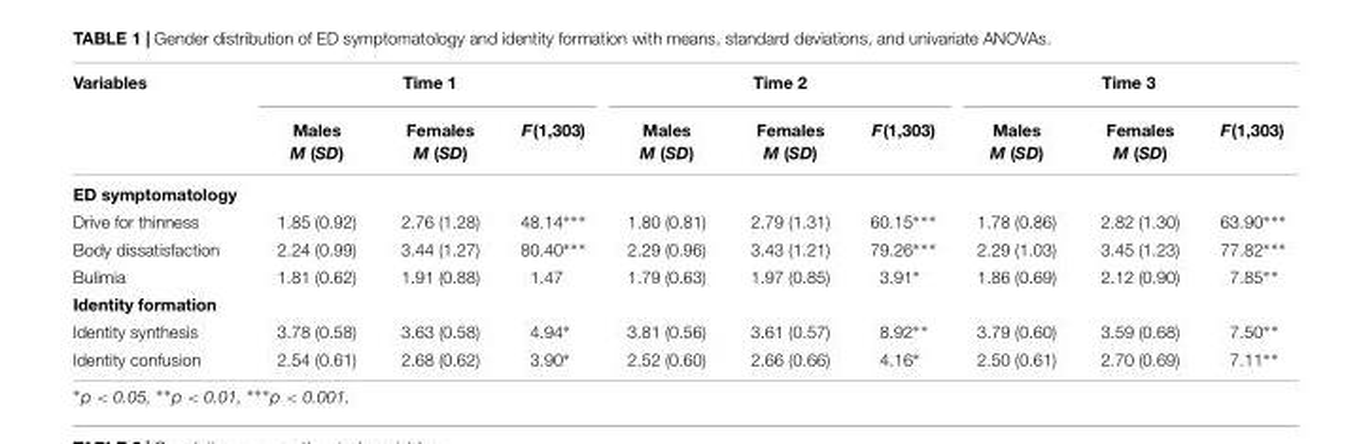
<table><thead><tr><td rowspan="2">Variables</td><td colspan="3">Time 1</td><td colspan="3">Time 2</td><td colspan="3">Time 3</td></tr><tr><td>Males M (SD)</td><td>Females M (SD)</td><td>F(1,303)</td><td>Males M (SD)</td><td>Females M (SD)</td><td>F(1,303)</td><td>Males M (SD)</td><td>Females M (SD)</td><td>F(1,303)</td></tr></thead><tbody><tr><td colspan="10">ED symptomatology</td></tr><tr><td>Drive for thinness</td><td>1.85 (0.92)</td><td>2.76 (1.28)</td><td>48.14∗∗∗</td><td>1.80 (0.81)</td><td>2.79 (1.31)</td><td>60.15∗∗∗</td><td>1.78 (0.86)</td><td>2.82 (1.30)</td><td>63.90∗∗∗</td></tr><tr><td>Body dissatisfaction</td><td>2.24 (0.99)</td><td>3.44 (1.27)</td><td>80.40∗∗∗</td><td>2.29 (0.96)</td><td>3.43 (1.21)</td><td>79.26∗∗∗</td><td>2.29 (1.03)</td><td>3.45 (1.23)</td><td>77.82∗∗∗</td></tr><tr><td>Bulimia</td><td>1.81 (0.62)</td><td>1.91 (0.88)</td><td>1.47</td><td>1.79 (0.63)</td><td>1.97 (0.85)</td><td>3.91∗</td><td>1.86 (0.69)</td><td>2.12 (0.90)</td><td>7.85∗∗</td></tr><tr><td colspan="10">Identity formation</td></tr><tr><td>Identity synthesis</td><td>3.78 (0.58)</td><td>3.63 (0.58)</td><td>4.94∗</td><td>3.81 (0.56)</td><td>3.61 (0.57)</td><td>8.92∗∗</td><td>3.79 (0.60)</td><td>3.59 (0.68)</td><td>7.50∗∗</td></tr><tr><td>Identity confusion</td><td>2.54 (0.61)</td><td>2.68 (0.62)</td><td>3.90∗</td><td>2.52 (0.60)</td><td>2.66 (0.66)</td><td>4.16∗</td><td>2.50 (0.61)</td><td>2.70 (0.69)</td><td>7.11∗∗</td></tr></tbody></table>